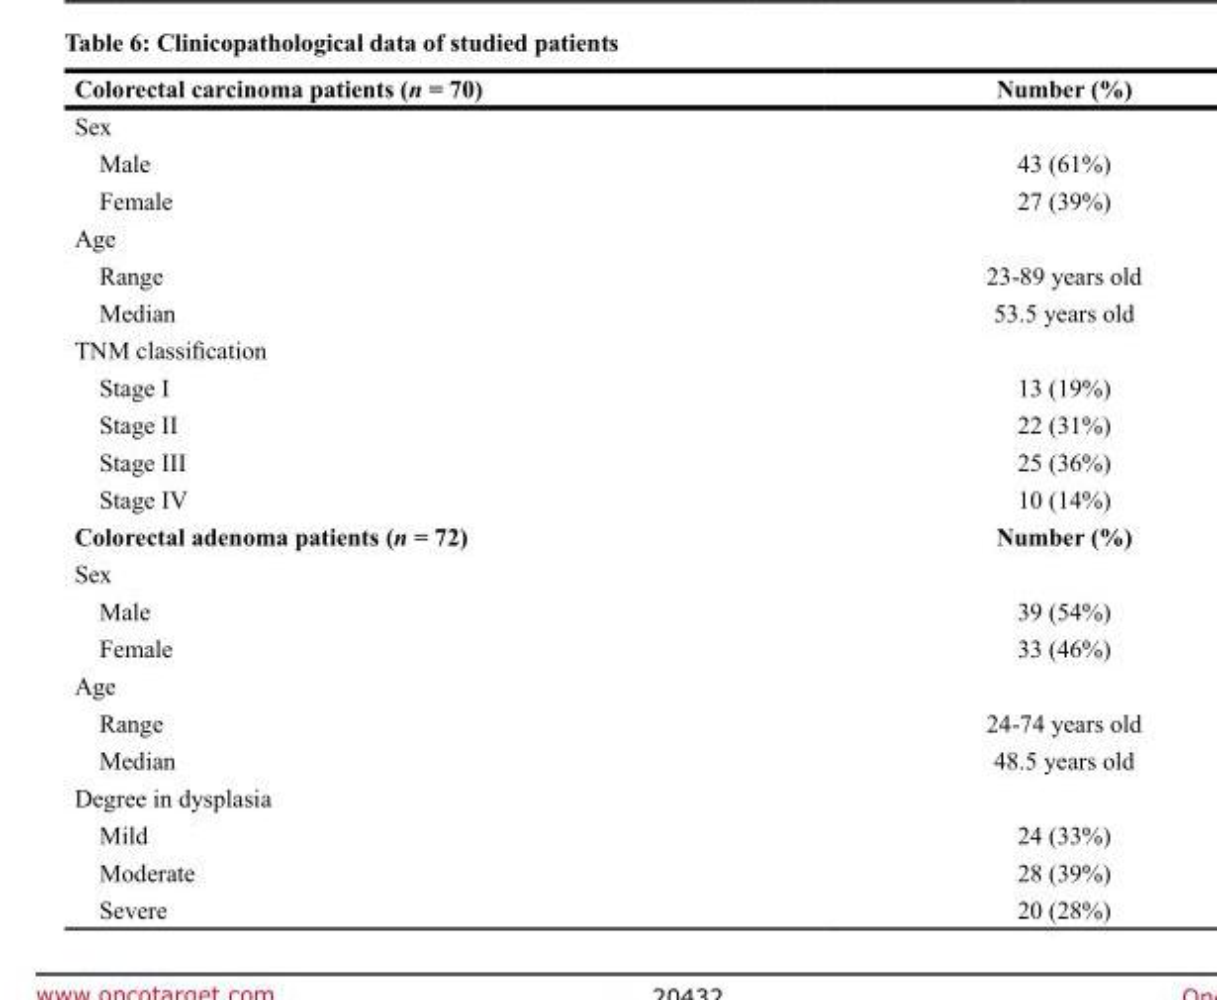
<table><thead><tr><td>Colorectal carcinoma patients (n = 70)</td><td>Number (%)</td></tr></thead><tbody><tr><td colspan="2">Sex</td></tr><tr><td>Male</td><td>43 (61%)</td></tr><tr><td>Female</td><td>27 (39%)</td></tr><tr><td colspan="2">Age</td></tr><tr><td>Range</td><td>23-89 years old</td></tr><tr><td>Median</td><td>53.5 years old</td></tr><tr><td colspan="2">TNM classification</td></tr><tr><td>Stage I</td><td>13 (19%)</td></tr><tr><td>Stage II</td><td>22 (31%)</td></tr><tr><td>Stage III</td><td>25 (36%)</td></tr><tr><td>Stage IV</td><td>10 (14%)</td></tr><tr><td>Colorectal adenoma patients (n = 72)</td><td>Number (%)</td></tr><tr><td colspan="2">Sex</td></tr><tr><td>Male</td><td>39 (54%)</td></tr><tr><td>Female</td><td>33 (46%)</td></tr><tr><td colspan="2">Age</td></tr><tr><td>Range</td><td>24-74 years old</td></tr><tr><td>Median</td><td>48.5 years old</td></tr><tr><td colspan="2">Degree in dysplasia</td></tr><tr><td>Mild</td><td>24 (33%)</td></tr><tr><td>Moderate</td><td>28 (39%)</td></tr><tr><td>Severe</td><td>20 (28%)</td></tr></tbody></table>